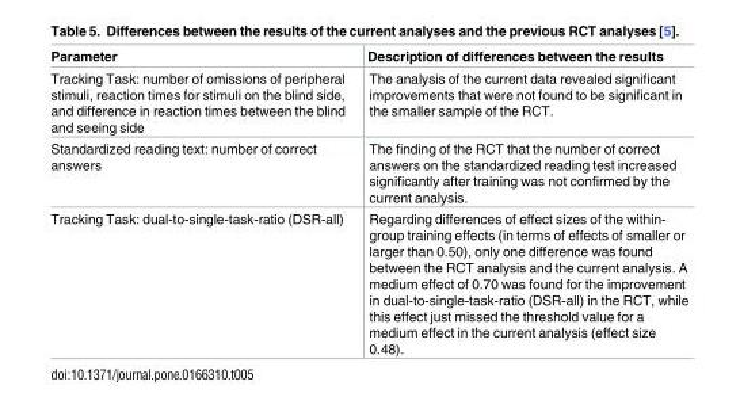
<table><thead><tr><td>Parameter</td><td>Description of differences between the results</td></tr></thead><tbody><tr><td>Tracking Task: number of omissions of peripheral stimuli, reaction times for stimuli on the blind side, and difference in reaction times between the blind and seeing side</td><td>The analysis of the current data revealed significant improvements that were not found to be significant in the smaller sample of the RCT.</td></tr><tr><td>Standardized reading text: number of correct answers</td><td>The finding of the RCT that the number of correct answers on the standardized reading test increased significantly after training was not confirmed by the current analysis.</td></tr><tr><td>Tracking Task: dual-to-single-task-ratio (DSR-all)</td><td>Regarding differences of effect sizes of the within- group training effects (in terms of effects of smaller or larger than 0.50), only one difference was found between the RCT analysis and the current analysis. A medium effect of 0.70 was found for the improvement in dual-to-single-task-ratio (DSR-all) in the RCT, while this effect just missed the threshold value for a medium effect in the current analysis (effect size 0.48).</td></tr></tbody></table>